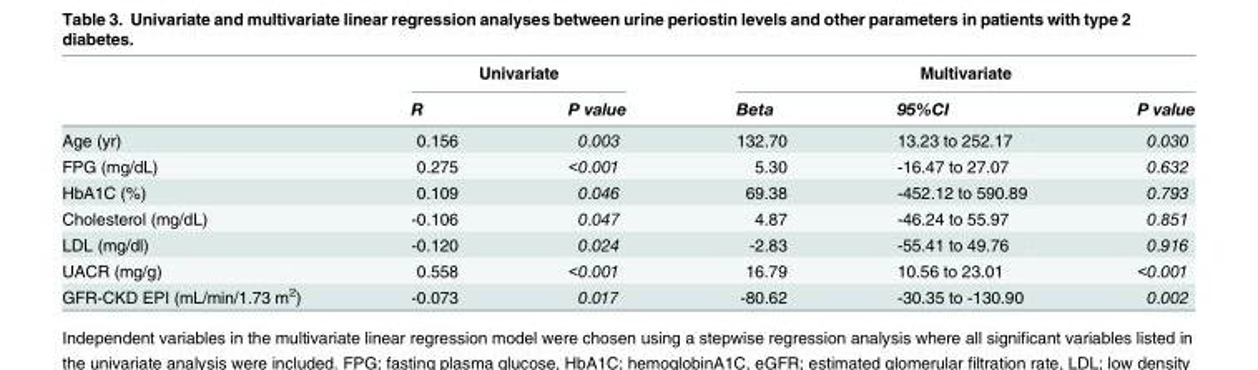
<table><thead><tr><td rowspan="2"></td><td colspan="2">Univariate</td><td colspan="3">Multivariate</td></tr><tr><td>R</td><td>P value</td><td>Beta</td><td>95%CI</td><td>P value</td></tr></thead><tbody><tr><td>Age (yr)</td><td>0.156</td><td>0.003</td><td>132.70</td><td>13.23 to 252.17</td><td>0.030</td></tr><tr><td>FPG (mg/dL)</td><td>0.275</td><td>&lt;0.001</td><td>5.30</td><td>-16.47 to 27.07</td><td>0.632</td></tr><tr><td>HbA1C (%)</td><td>0.109</td><td>0.046</td><td>69.38</td><td>-452.12 to 590.89</td><td>0.793</td></tr><tr><td>Cholesterol (mg/dL)</td><td>-0.106</td><td>0.047</td><td>4.87</td><td>-46.24 to 55.97</td><td>0.851</td></tr><tr><td>LDL (mg/dl)</td><td>-0.120</td><td>0.024</td><td>-2.83</td><td>-55.41 to 49.76</td><td>0.916</td></tr><tr><td>UACR (mg/g)</td><td>0.558</td><td>&lt;0.001</td><td>16.79</td><td>10.56 to 23.01</td><td>&lt;0.001</td></tr><tr><td>GFR-CKD EPI (mL/min/1.73 m<sup>2</sup>)</td><td>-0.073</td><td>0.017</td><td>-80.62</td><td>-30.35 to -130.90</td><td>0.002</td></tr></tbody></table>